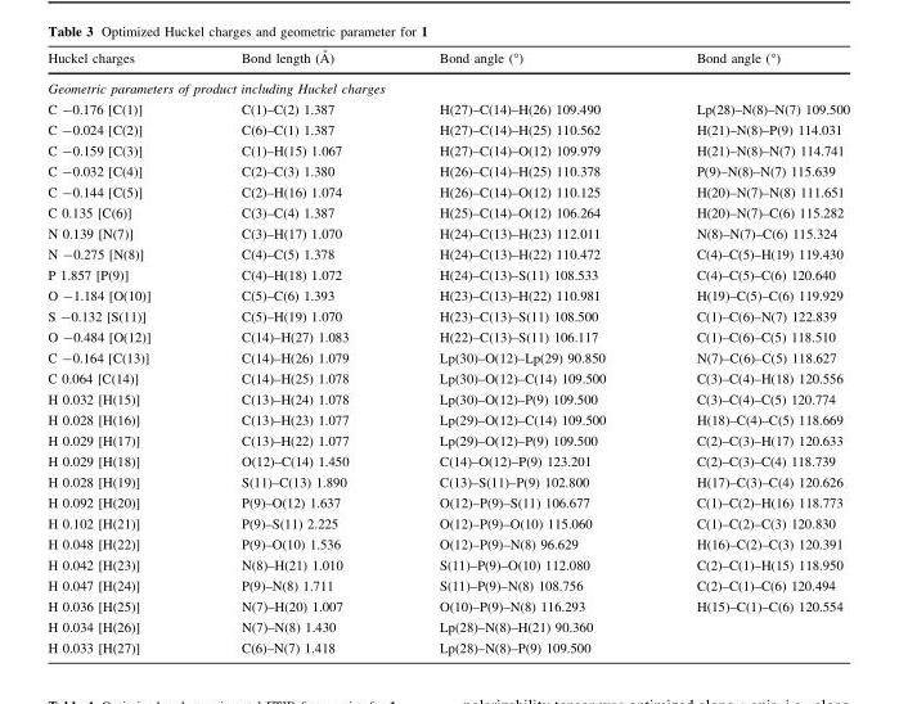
<table><thead><tr><td>Huckel charges</td><td>Bond length (A˚ )</td><td>Bond angle (°)</td><td>Bond angle (°)</td></tr></thead><tbody><tr><td colspan="4">Geometric parameters of product including Huckel charges</td></tr><tr><td>C -0.176 [C(1)] C -0.024 [C(2)] C -0.159 [C(3)] C -0.032 [C(4)] C -0.144 [C(5)] C 0.135 [C(6)] N 0.139 [N(7)] N -0.275 [N(8)] P 1.857 [P(9)] O -1.184 [O(10)] S -0.132 [S(11)] O -0.484 [O(12)] C -0.164 [C(13)] C 0.064 [C(14)] H 0.032 [H(15)] H 0.028 [H(16)] H 0.029 [H(17)] H 0.029 [H(18)] H 0.028 [H(19)] H 0.092 [H(20)] H 0.102 [H(21)] H 0.048 [H(22)] H 0.042 [H(23)] H 0.047 [H(24)] H 0.036 [H(25)] H 0.034 [H(26)] H 0.033 [H(27)]</td><td>C(1)–C(2) 1.387 C(6)–C(1) 1.387 C(1)–H(15) 1.067 C(2)–C(3) 1.380 C(2)–H(16) 1.074 C(3)–C(4) 1.387 C(3)–H(17) 1.070 C(4)–C(5) 1.378 C(4)–H(18) 1.072 C(5)–C(6) 1.393 C(5)–H(19) 1.070 C(14)–H(27) 1.083 C(14)–H(26) 1.079 C(14)–H(25) 1.078 C(13)–H(24) 1.078 C(13)–H(23) 1.077 C(13)–H(22) 1.077 O(12)–C(14) 1.450 S(11)–C(13) 1.890 P(9)–O(12) 1.637 P(9)–S(11) 2.225 P(9)–O(10) 1.536 N(8)–H(21) 1.010 P(9)–N(8) 1.711 N(7)–H(20) 1.007 N(7)–N(8) 1.430 C(6)–N(7) 1.418</td><td>H(27)–C(14)–H(26) 109.490 H(27)–C(14)–H(25) 110.562 H(27)–C(14)–O(12) 109.979 H(26)–C(14)–H(25) 110.378 H(26)–C(14)–O(12) 110.125 H(25)–C(14)–O(12) 106.264 H(24)–C(13)–H(23) 112.011 H(24)–C(13)–H(22) 110.472 H(24)–C(13)–S(11) 108.533 H(23)–C(13)–H(22) 110.981 H(23)–C(13)–S(11) 108.500 H(22)–C(13)–S(11) 106.117 Lp(30)–O(12)–Lp(29) 90.850 Lp(30)–O(12)–C(14) 109.500 Lp(30)–O(12)–P(9) 109.500 Lp(29)–O(12)–C(14) 109.500 Lp(29)–O(12)–P(9) 109.500 C(14)–O(12)–P(9) 123.201 C(13)–S(11)–P(9) 102.800 O(12)–P(9)–S(11) 106.677 O(12)–P(9)–O(10) 115.060 O(12)–P(9)–N(8) 96.629 S(11)–P(9)–O(10) 112.080 S(11)–P(9)–N(8) 108.756 O(10)–P(9)–N(8) 116.293 Lp(28)–N(8)–H(21) 90.360 Lp(28)–N(8)–P(9) 109.500</td><td>Lp(28)–N(8)–N(7) 109.500 H(21)–N(8)–P(9) 114.031 H(21)–N(8)–N(7) 114.741 P(9)–N(8)–N(7) 115.639 H(20)–N(7)–N(8) 111.651 H(20)–N(7)–C(6) 115.282 N(8)–N(7)–C(6) 115.324 C(4)–C(5)–H(19) 119.430 C(4)–C(5)–C(6) 120.640 H(19)–C(5)–C(6) 119.929 C(1)–C(6)–N(7) 122.839 C(1)–C(6)–C(5) 118.510 N(7)–C(6)–C(5) 118.627 C(3)–C(4)–H(18) 120.556 C(3)–C(4)–C(5) 120.774 H(18)–C(4)–C(5) 118.669 C(2)–C(3)–H(17) 120.633 C(2)–C(3)–C(4) 118.739 H(17)–C(3)–C(4) 120.626 C(1)–C(2)–H(16) 118.773 C(1)–C(2)–C(3) 120.830 H(16)–C(2)–C(3) 120.391 C(2)–C(1)–H(15) 118.950 C(2)–C(1)–C(6) 120.494 H(15)–C(1)–C(6) 120.554</td></tr></tbody></table>